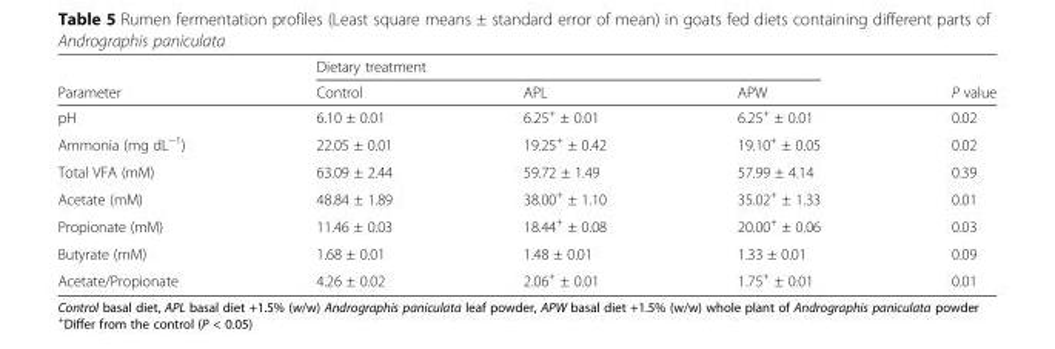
<table><thead><tr><td rowspan="2">Parameter</td><td colspan="3">Dietary treatment</td><td rowspan="2">P value</td></tr><tr><td>Control</td><td>APL</td><td>APW</td></tr></thead><tbody><tr><td>pH</td><td>6.10 ± 0.01</td><td>6.25<sup>+</sup> ± 0.01</td><td>6.25<sup>+</sup> ± 0.01</td><td>0.02</td></tr><tr><td>Ammonia (mg dL<sup>−1</sup>)</td><td>22.05 ± 0.01</td><td>19.25<sup>+</sup> ± 0.42</td><td>19.10<sup>+</sup> ± 0.05</td><td>0.02</td></tr><tr><td>Total VFA (mM)</td><td>63.09 ± 2.44</td><td>59.72 ± 1.49</td><td>57.99 ± 4.14</td><td>0.39</td></tr><tr><td>Acetate (mM)</td><td>48.84 ± 1.89</td><td>38.00<sup>+</sup> ± 1.10</td><td>35.02<sup>+</sup> ± 1.33</td><td>0.01</td></tr><tr><td>Propionate (mM)</td><td>11.46 ± 0.03</td><td>18.44<sup>+</sup> ± 0.08</td><td>20.00<sup>+</sup> ± 0.06</td><td>0.03</td></tr><tr><td>Butyrate (mM)</td><td>1.68 ± 0.01</td><td>1.48 ± 0.01</td><td>1.33 ± 0.01</td><td>0.09</td></tr><tr><td>Acetate/Propionate</td><td>4.26 ± 0.02</td><td>2.06<sup>+</sup> ± 0.01</td><td>1.75<sup>+</sup> ± 0.01</td><td>0.01</td></tr></tbody></table>